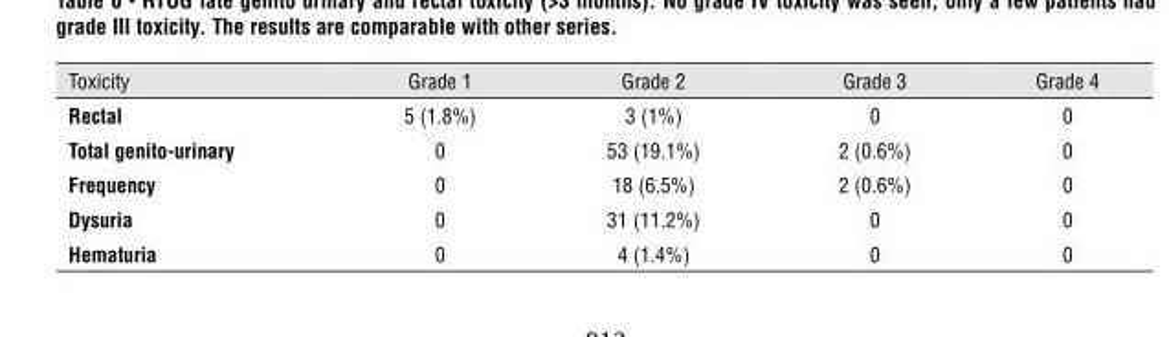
<table><thead><tr><td>Toxicity</td><td>Grade 1</td><td>Grade 2</td><td>Grade 3</td><td>Grade 4</td></tr></thead><tbody><tr><td>Rectal</td><td>5 (1.8%)</td><td>3 (1%)</td><td>0</td><td>0</td></tr><tr><td>Total genito-urinary</td><td>0</td><td>53 (19.1%)</td><td>2 (0.6%)</td><td>0</td></tr><tr><td>Frequency</td><td>0</td><td>18 (6.5%)</td><td>2 (0.6%)</td><td>0</td></tr><tr><td>Dysuria</td><td>0</td><td>31 (11.2%)</td><td>0</td><td>0</td></tr><tr><td>Hematuria</td><td>0</td><td>4 (1.4%)</td><td>0</td><td>0</td></tr></tbody></table>